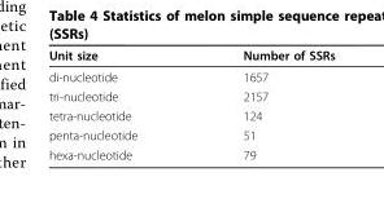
<table><thead><tr><td>Unit size</td><td>Number of SSRs</td></tr></thead><tbody><tr><td>di-nucleotide</td><td>1657</td></tr><tr><td>tri-nucleotide</td><td>2157</td></tr><tr><td>tetra-nucleotide</td><td>124</td></tr><tr><td>penta-nucleotide</td><td>51</td></tr><tr><td>hexa-nucleotide</td><td>79</td></tr></tbody></table>